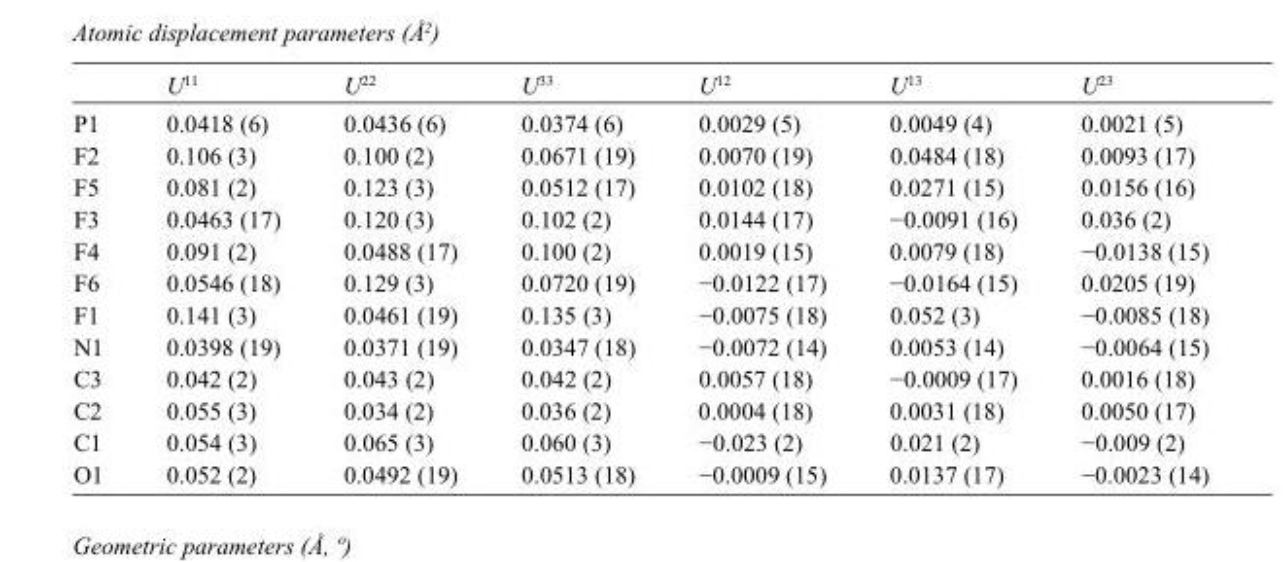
<table><thead><tr><td></td><td>U<sup>11</sup></td><td>U<sup>22</sup></td><td>U<sup>33</sup></td><td>U<sup>12</sup></td><td>U<sup>13</sup></td><td>U<sup>23</sup></td></tr></thead><tbody><tr><td>P1</td><td>0.0418 (6)</td><td>0.0436 (6)</td><td>0.0374 (6)</td><td>0.0029 (5)</td><td>0.0049 (4)</td><td>0.0021 (5)</td></tr><tr><td>F2</td><td>0.106 (3)</td><td>0.100 (2)</td><td>0.0671 (19)</td><td>0.0070 (19)</td><td>0.0484 (18)</td><td>0.0093 (17)</td></tr><tr><td>F5</td><td>0.081 (2)</td><td>0.123 (3)</td><td>0.0512 (17)</td><td>0.0102 (18)</td><td>0.0271 (15)</td><td>0.0156 (16)</td></tr><tr><td>F3</td><td>0.0463 (17)</td><td>0.120 (3)</td><td>0.102 (2)</td><td>0.0144 (17)</td><td>−0.0091 (16)</td><td>0.036 (2)</td></tr><tr><td>F4</td><td>0.091 (2)</td><td>0.0488 (17)</td><td>0.100 (2)</td><td>0.0019 (15)</td><td>0.0079 (18)</td><td>−0.0138 (15)</td></tr><tr><td>F6</td><td>0.0546 (18)</td><td>0.129 (3)</td><td>0.0720 (19)</td><td>−0.0122 (17)</td><td>−0.0164 (15)</td><td>0.0205 (19)</td></tr><tr><td>F1</td><td>0.141 (3)</td><td>0.0461 (19)</td><td>0.135 (3)</td><td>−0.0075 (18)</td><td>0.052 (3)</td><td>−0.0085 (18)</td></tr><tr><td>N1</td><td>0.0398 (19)</td><td>0.0371 (19)</td><td>0.0347 (18)</td><td>−0.0072 (14)</td><td>0.0053 (14)</td><td>−0.0064 (15)</td></tr><tr><td>C3</td><td>0.042 (2)</td><td>0.043 (2)</td><td>0.042 (2)</td><td>0.0057 (18)</td><td>−0.0009 (17)</td><td>0.0016 (18)</td></tr><tr><td>C2</td><td>0.055 (3)</td><td>0.034 (2)</td><td>0.036 (2)</td><td>0.0004 (18)</td><td>0.0031 (18)</td><td>0.0050 (17)</td></tr><tr><td>C1</td><td>0.054 (3)</td><td>0.065 (3)</td><td>0.060 (3)</td><td>−0.023 (2)</td><td>0.021 (2)</td><td>−0.009 (2)</td></tr><tr><td>O1</td><td>0.052 (2)</td><td>0.0492 (19)</td><td>0.0513 (18)</td><td>−0.0009 (15)</td><td>0.0137 (17)</td><td>−0.0023 (14)</td></tr></tbody></table>